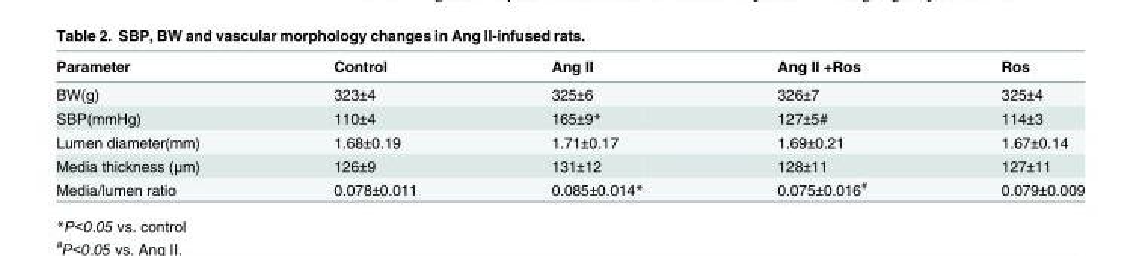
<table><thead><tr><td>Parameter</td><td>Control</td><td>Ang II</td><td>Ang II +Ros</td><td>Ros</td></tr></thead><tbody><tr><td>BW(g)</td><td>323±4</td><td>325±6</td><td>326±7</td><td>325±4</td></tr><tr><td>SBP(mmHg)</td><td>110±4</td><td>165±9*</td><td>127±5#</td><td>114±3</td></tr><tr><td>Lumen diameter(mm)</td><td>1.68±0.19</td><td>1.71±0.17</td><td>1.69±0.21</td><td>1.67±0.14</td></tr><tr><td>Media thickness (μm)</td><td>126±9</td><td>131±12</td><td>128±11</td><td>127±11</td></tr><tr><td>Media/lumen ratio</td><td>0.078±0.011</td><td>0.085±0.014*</td><td>0.075±0.016<sup>#</sup></td><td>0.079±0.009</td></tr></tbody></table>